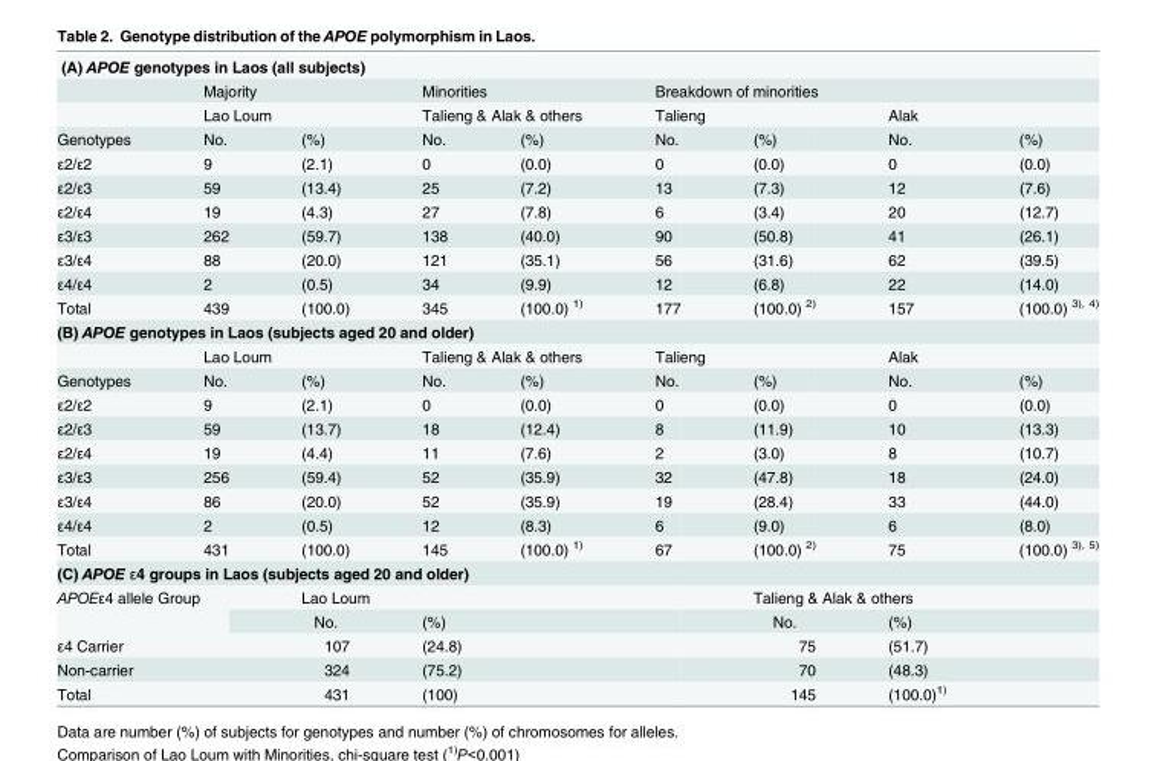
<table><tbody><tr><td colspan="9">(A) APOE genotypes in Laos (all subjects)</td></tr><tr><td></td><td colspan="2">Majority</td><td colspan="2">Minorities</td><td colspan="4">Breakdown of minorities</td></tr><tr><td></td><td colspan="2">Lao Loum</td><td colspan="2">Talieng &amp; Alak &amp; others</td><td colspan="2">Talieng</td><td colspan="2">Alak</td></tr><tr><td>Genotypes</td><td>No.</td><td>(%)</td><td>No.</td><td>(%)</td><td>No.</td><td>(%)</td><td>No.</td><td>(%)</td></tr><tr><td>ε2/ε2</td><td>9</td><td>(2.1)</td><td>0</td><td>(0.0)</td><td>0</td><td>(0.0)</td><td>0</td><td>(0.0)</td></tr><tr><td>ε2/ε3</td><td>59</td><td>(13.4)</td><td>25</td><td>(7.2)</td><td>13</td><td>(7.3)</td><td>12</td><td>(7.6)</td></tr><tr><td>ε2/ε4</td><td>19</td><td>(4.3)</td><td>27</td><td>(7.8)</td><td>6</td><td>(3.4)</td><td>20</td><td>(12.7)</td></tr><tr><td>ε3/ε3</td><td>262</td><td>(59.7)</td><td>138</td><td>(40.0)</td><td>90</td><td>(50.8)</td><td>41</td><td>(26.1)</td></tr><tr><td>ε3/ε4</td><td>88</td><td>(20.0)</td><td>121</td><td>(35.1)</td><td>56</td><td>(31.6)</td><td>62</td><td>(39.5)</td></tr><tr><td>ε4/ε4</td><td>2</td><td>(0.5)</td><td>34</td><td>(9.9)</td><td>12</td><td>(6.8)</td><td>22</td><td>(14.0)</td></tr><tr><td>Total</td><td>439</td><td>(100.0)</td><td>345</td><td>(100.0) <sup>1)</sup></td><td>177</td><td>(100.0) <sup>2)</sup></td><td>157</td><td>(100.0) <sup>3), 4)</sup></td></tr><tr><td colspan="9">(B) APOE genotypes in Laos (subjects aged 20 and older)</td></tr><tr><td></td><td colspan="2">Lao Loum</td><td colspan="2">Talieng &amp; Alak &amp; others</td><td colspan="2">Talieng</td><td colspan="2">Alak</td></tr><tr><td>Genotypes</td><td>No.</td><td>(%)</td><td>No.</td><td>(%)</td><td>No.</td><td>(%)</td><td>No.</td><td>(%)</td></tr><tr><td>ε2/ε2</td><td>9</td><td>(2.1)</td><td>0</td><td>(0.0)</td><td>0</td><td>(0.0)</td><td>0</td><td>(0.0)</td></tr><tr><td>ε2/ε3</td><td>59</td><td>(13.7)</td><td>18</td><td>(12.4)</td><td>8</td><td>(11.9)</td><td>10</td><td>(13.3)</td></tr><tr><td>ε2/ε4</td><td>19</td><td>(4.4)</td><td>11</td><td>(7.6)</td><td>2</td><td>(3.0)</td><td>8</td><td>(10.7)</td></tr><tr><td>ε3/ε3</td><td>256</td><td>(59.4)</td><td>52</td><td>(35.9)</td><td>32</td><td>(47.8)</td><td>18</td><td>(24.0)</td></tr><tr><td>ε3/ε4</td><td>86</td><td>(20.0)</td><td>52</td><td>(35.9)</td><td>19</td><td>(28.4)</td><td>33</td><td>(44.0)</td></tr><tr><td>ε4/ε4</td><td>2</td><td>(0.5)</td><td>12</td><td>(8.3)</td><td>6</td><td>(9.0)</td><td>6</td><td>(8.0)</td></tr><tr><td>Total</td><td>431</td><td>(100.0)</td><td>145</td><td>(100.0) <sup>1)</sup></td><td>67</td><td>(100.0) <sup>2)</sup></td><td>75</td><td>(100.0) <sup>3), 5)</sup></td></tr><tr><td colspan="9">(C) APOE ε4 groups in Laos (subjects aged 20 and older)</td></tr><tr><td rowspan="2" colspan="2">APOEε4 allele Group</td><td colspan="3">Lao Loum</td><td></td><td colspan="3">Talieng &amp; Alak &amp; others</td></tr><tr><td>No.</td><td colspan="2">(%)</td><td></td><td>No.</td><td colspan="2">(%)</td></tr><tr><td colspan="2">ε4 Carrier</td><td>107</td><td colspan="2">(24.8)</td><td></td><td>75</td><td>(51.7)</td><td></td></tr><tr><td colspan="2">Non-carrier</td><td>324</td><td colspan="2">(75.2)</td><td></td><td>70</td><td>(48.3)</td><td></td></tr><tr><td colspan="2">Total</td><td>431</td><td colspan="2">(100)</td><td></td><td>145</td><td>(100.0)<sup>1)</sup></td><td></td></tr></tbody></table>